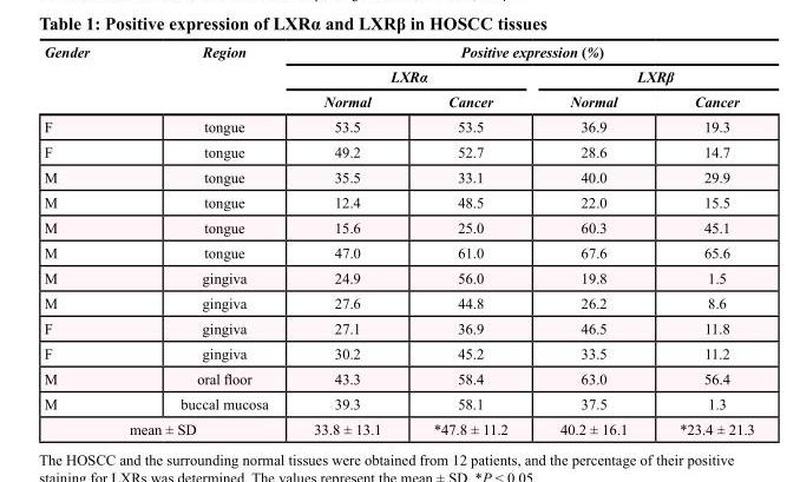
<table><thead><tr><td rowspan="3">Gender</td><td rowspan="3">Region</td><td colspan="4">Positive expression (%)</td></tr><tr><td colspan="2">LXRα</td><td colspan="2">LXRβ</td></tr><tr><td>Normal</td><td>Cancer</td><td>Normal</td><td>Cancer</td></tr></thead><tbody><tr><td>F</td><td>tongue</td><td>53.5</td><td>53.5</td><td>36.9</td><td>19.3</td></tr><tr><td>F</td><td>tongue</td><td>49.2</td><td>52.7</td><td>28.6</td><td>14.7</td></tr><tr><td>M</td><td>tongue</td><td>35.5</td><td>33.1</td><td>40.0</td><td>29.9</td></tr><tr><td>M</td><td>tongue</td><td>12.4</td><td>48.5</td><td>22.0</td><td>15.5</td></tr><tr><td>M</td><td>tongue</td><td>15.6</td><td>25.0</td><td>60.3</td><td>45.1</td></tr><tr><td>M</td><td>tongue</td><td>47.0</td><td>61.0</td><td>67.6</td><td>65.6</td></tr><tr><td>M</td><td>gingiva</td><td>24.9</td><td>56.0</td><td>19.8</td><td>1.5</td></tr><tr><td>M</td><td>gingiva</td><td>27.6</td><td>44.8</td><td>26.2</td><td>8.6</td></tr><tr><td>F</td><td>gingiva</td><td>27.1</td><td>36.9</td><td>46.5</td><td>11.8</td></tr><tr><td>F</td><td>gingiva</td><td>30.2</td><td>45.2</td><td>33.5</td><td>11.2</td></tr><tr><td>M</td><td>oral floor</td><td>43.3</td><td>58.4</td><td>63.0</td><td>56.4</td></tr><tr><td>M</td><td>buccal mucosa</td><td>39.3</td><td>58.1</td><td>37.5</td><td>1.3</td></tr><tr><td colspan="2">mean ± SD</td><td>33.8 ± 13.1</td><td>*47.8 ± 11.2</td><td>40.2 ± 16.1</td><td>*23.4 ± 21.3</td></tr></tbody></table>